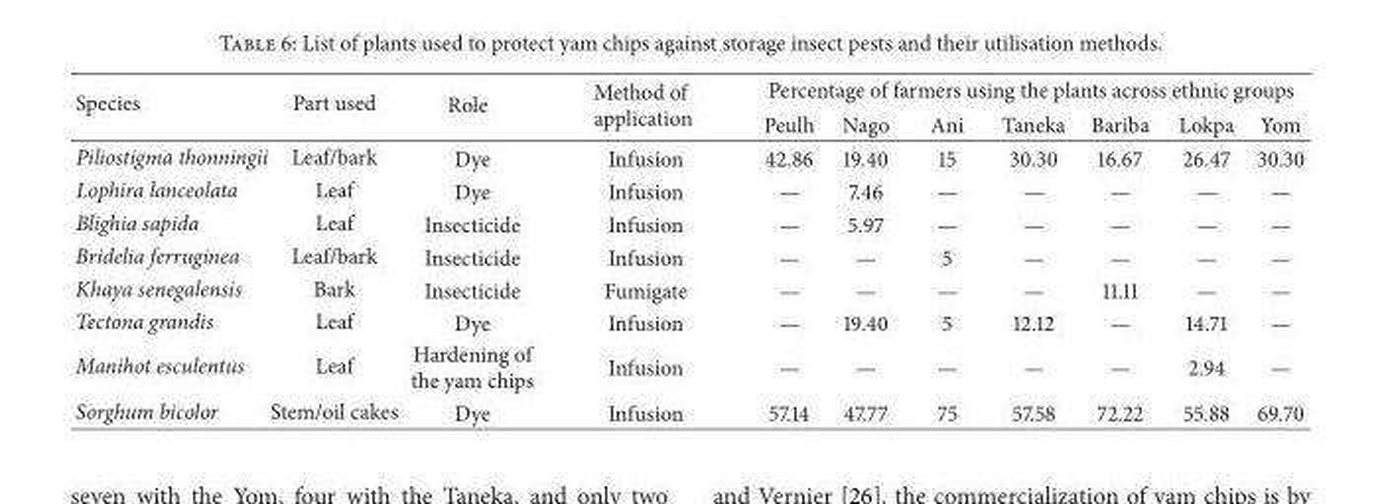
<table><thead><tr><td rowspan="2">Species</td><td rowspan="2">Part used</td><td rowspan="2">Role</td><td rowspan="2">Method of application</td><td colspan="7">Percentage of farmers using the plants across ethnic groups</td></tr><tr><td>Peulh</td><td>Nago</td><td>Ani</td><td>Taneka</td><td>Bariba</td><td>Lokpa</td><td>Yom</td></tr></thead><tbody><tr><td>Piliostigma thonningii</td><td>Leaf/bark</td><td>Dye</td><td>Infusion</td><td>42.86</td><td>19.40</td><td>15</td><td>30.30</td><td>16.67</td><td>26.47</td><td>30.30</td></tr><tr><td>Lophira lanceolata</td><td>Leaf</td><td>Dye</td><td>Infusion</td><td>—</td><td>7.46</td><td>—</td><td>—</td><td>—</td><td>—</td><td>—</td></tr><tr><td>Blighia sapida</td><td>Leaf</td><td>Insecticide</td><td>Infusion</td><td>—</td><td>5.97</td><td>—</td><td>—</td><td>—</td><td>—</td><td>—</td></tr><tr><td>Bridelia ferruginea</td><td>Leaf/bark</td><td>Insecticide</td><td>Infusion</td><td>—</td><td>—</td><td>5</td><td>—</td><td>—</td><td>—</td><td>—</td></tr><tr><td>Khaya senegalensis</td><td>Bark</td><td>Insecticide</td><td>Fumigate</td><td>—</td><td>—</td><td>—</td><td>—</td><td>11.11</td><td>—</td><td>—</td></tr><tr><td>Tectona grandis</td><td>Leaf</td><td>Dye</td><td>Infusion</td><td>—</td><td>19.40</td><td>5</td><td>12.12</td><td>—</td><td>14.71</td><td>—</td></tr><tr><td>Manihot esculentus</td><td>Leaf</td><td>Hardening of the yam chips</td><td>Infusion</td><td>—</td><td>—</td><td>—</td><td>—</td><td>—</td><td>2.94</td><td>—</td></tr><tr><td>Sorghum bicolor</td><td>Stem/oil cakes</td><td>Dye</td><td>Infusion</td><td>57.14</td><td>47.77</td><td>75</td><td>57.58</td><td>72.22</td><td>55.88</td><td>69.70</td></tr></tbody></table>